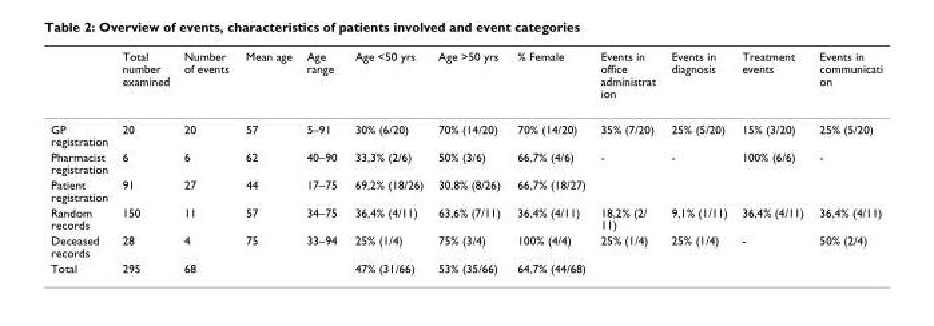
<table><thead><tr><td></td><td>Total number examined</td><td>Number of events</td><td>Mean age</td><td>Age range</td><td>Age &lt;50 yrs</td><td>Age &gt;50 yrs</td><td>% Female</td><td>Events in office administrat ion</td><td>Events in diagnosis</td><td>Treatment events</td><td>Events in communicati on</td></tr></thead><tbody><tr><td>GP registration</td><td>20</td><td>20</td><td>57</td><td>5–91</td><td>30% (6/20)</td><td>70% (14/20)</td><td>70% (14/20)</td><td>35% (7/20)</td><td>25% (5/20)</td><td>15% (3/20)</td><td>25% (5/20)</td></tr><tr><td>Pharmacist registration</td><td>6</td><td>6</td><td>62</td><td>40–90</td><td>33,3% (2/6)</td><td>50% (3/6)</td><td>66,7% (4/6)</td><td>-</td><td>-</td><td>100% (6/6)</td><td>-</td></tr><tr><td>Patient registration</td><td>91</td><td>27</td><td>44</td><td>17–75</td><td>69,2% (18/26)</td><td>30,8% (8/26)</td><td>66,7% (18/27)</td><td></td><td></td><td></td><td></td></tr><tr><td>Random records</td><td>150</td><td>11</td><td>57</td><td>34–75</td><td>36,4% (4/11)</td><td>63,6% (7/11)</td><td>36,4% (4/11)</td><td>18,2% (2/ 11)</td><td>9,1% (1/11)</td><td>36,4% (4/11)</td><td>36,4% (4/11)</td></tr><tr><td>Deceased records</td><td>28</td><td>4</td><td>75</td><td>33–94</td><td>25% (1/4)</td><td>75% (3/4)</td><td>100% (4/4)</td><td>25% (1/4)</td><td>25% (1/4)</td><td>-</td><td>50% (2/4)</td></tr><tr><td>Total</td><td>295</td><td>68</td><td></td><td></td><td>47% (31/66)</td><td>53% (35/66)</td><td>64,7% (44/68)</td><td></td><td></td><td></td><td></td></tr></tbody></table>